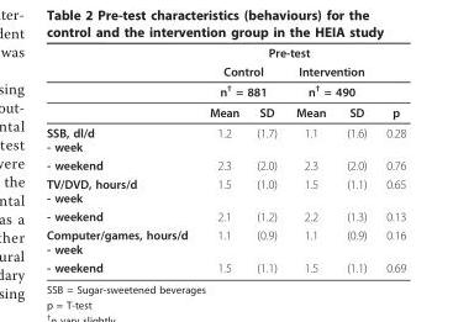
<table><thead><tr><td rowspan="4"></td><td colspan="4">Pre-test</td><td rowspan="4">p</td></tr><tr><td rowspan="2" colspan="2">Control n† = 881</td><td rowspan="2" colspan="2">Intervention n† = 490</td></tr><tr></tr><tr><td>Mean</td><td>SD</td><td>Mean</td><td>SD</td></tr></thead><tbody><tr><td>SSB, dl/d - week</td><td>1.2</td><td>(1.7)</td><td>1.1</td><td>(1.6)</td><td>0.28</td></tr><tr><td>- weekend</td><td>2.3</td><td>(2.0)</td><td>2.3</td><td>(2.0)</td><td>0.76</td></tr><tr><td>TV/DVD, hours/d - week</td><td>1.5</td><td>(1.0)</td><td>1.5</td><td>(1.1)</td><td>0.65</td></tr><tr><td>- weekend</td><td>2.1</td><td>(1.2)</td><td>2.2</td><td>(1.3)</td><td>0.13</td></tr><tr><td>Computer/games, hours/d - week</td><td>1.1</td><td>(0.9)</td><td>1.1</td><td>(0.9)</td><td>0.16</td></tr><tr><td>- weekend</td><td>1.5</td><td>(1.1)</td><td>1.5</td><td>(1.1)</td><td>0.69</td></tr></tbody></table>